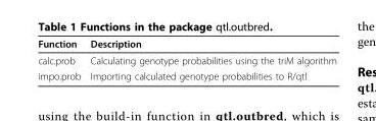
<table><thead><tr><td>Function</td><td>Description</td></tr></thead><tbody><tr><td>calc.prob</td><td>Calculating genotype probabilities using the triM algorithm</td></tr><tr><td>impo.prob</td><td>Importing calculated genotype probabilities to R/qtl</td></tr></tbody></table>